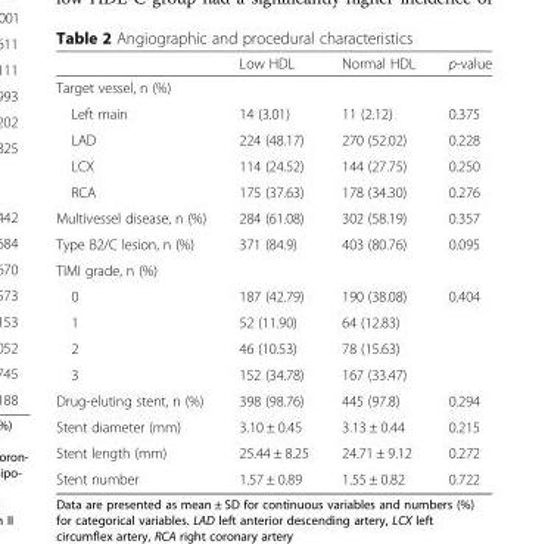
<table><thead><tr><td></td><td>Low HDL</td><td>Normal HDL</td><td>p-value</td></tr></thead><tbody><tr><td colspan="4">Target vessel, n (%)</td></tr><tr><td>Left main</td><td>14 (3.01)</td><td>11 (2.12)</td><td>0.375</td></tr><tr><td>LAD</td><td>224 (48.17)</td><td>270 (52.02)</td><td>0.228</td></tr><tr><td>LCX</td><td>114 (24.52)</td><td>144 (27.75)</td><td>0.250</td></tr><tr><td>RCA</td><td>175 (37.63)</td><td>178 (34.30)</td><td>0.276</td></tr><tr><td>Multivessel disease, n (%)</td><td>284 (61.08)</td><td>302 (58.19)</td><td>0.357</td></tr><tr><td>Type B2/C lesion, n (%)</td><td>371 (84.9)</td><td>403 (80.76)</td><td>0.095</td></tr><tr><td colspan="4">TIMI grade, n (%)</td></tr><tr><td>0</td><td>187 (42.79)</td><td>190 (38.08)</td><td>0.404</td></tr><tr><td>1</td><td>52 (11.90)</td><td>64 (12.83)</td><td></td></tr><tr><td>2</td><td>46 (10.53)</td><td>78 (15.63)</td><td></td></tr><tr><td>3</td><td>152 (34.78)</td><td>167 (33.47)</td><td></td></tr><tr><td>Drug-eluting stent, n (%)</td><td>398 (98.76)</td><td>445 (97.8)</td><td>0.294</td></tr><tr><td>Stent diameter (mm)</td><td>3.10 ± 0.45</td><td>3.13 ± 0.44</td><td>0.215</td></tr><tr><td>Stent length (mm)</td><td>25.44 ± 8.25</td><td>24.71 ± 9.12</td><td>0.272</td></tr><tr><td>Stent number</td><td>1.57 ± 0.89</td><td>1.55 ± 0.82</td><td>0.722</td></tr></tbody></table>